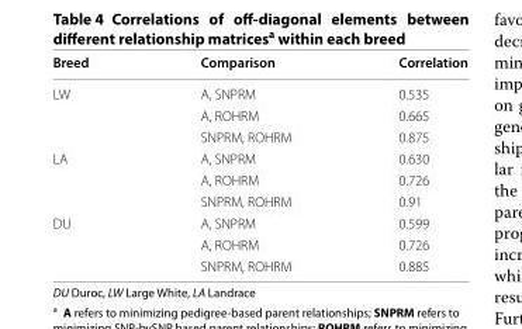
<table><thead><tr><td>Breed</td><td>Comparison</td><td>Correlation</td></tr></thead><tbody><tr><td rowspan="3">LW</td><td>A, SNPRM</td><td>0.535</td></tr><tr><td>A, ROHRM</td><td>0.665</td></tr><tr><td>SNPRM, ROHRM</td><td>0.875</td></tr><tr><td rowspan="3">LA</td><td>A, SNPRM</td><td>0.630</td></tr><tr><td>A, ROHRM</td><td>0.726</td></tr><tr><td>SNPRM, ROHRM</td><td>0.91</td></tr><tr><td rowspan="3">DU</td><td>A, SNPRM</td><td>0.599</td></tr><tr><td>A, ROHRM</td><td>0.726</td></tr><tr><td>SNPRM, ROHRM</td><td>0.885</td></tr></tbody></table>